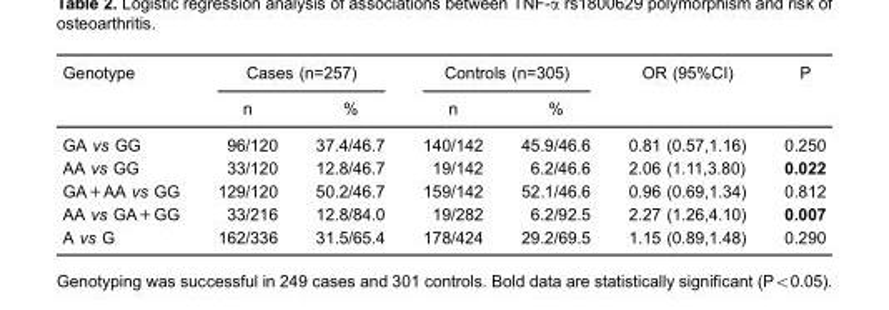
<table><thead><tr><td rowspan="2">Genotype</td><td colspan="2">Cases (n=257)</td><td colspan="2">Controls (n=305)</td><td rowspan="2">OR (95%CI)</td><td rowspan="2">P</td></tr><tr><td>n</td><td>%</td><td>n</td><td>%</td></tr></thead><tbody><tr><td>GA vs GG</td><td>96/120</td><td>37.4/46.7</td><td>140/142</td><td>45.9/46.6</td><td>0.81 (0.57,1.16)</td><td>0.250</td></tr><tr><td>AA vs GG</td><td>33/120</td><td>12.8/46.7</td><td>19/142</td><td>6.2/46.6</td><td>2.06 (1.11,3.80)</td><td>0.022</td></tr><tr><td>GA+AA vs GG</td><td>129/120</td><td>50.2/46.7</td><td>159/142</td><td>52.1/46.6</td><td>0.96 (0.69,1.34)</td><td>0.812</td></tr><tr><td>AA vs GA+GG</td><td>33/216</td><td>12.8/84.0</td><td>19/282</td><td>6.2/92.5</td><td>2.27 (1.26,4.10)</td><td>0.007</td></tr><tr><td>A vs G</td><td>162/336</td><td>31.5/65.4</td><td>178/424</td><td>29.2/69.5</td><td>1.15 (0.89,1.48)</td><td>0.290</td></tr></tbody></table>